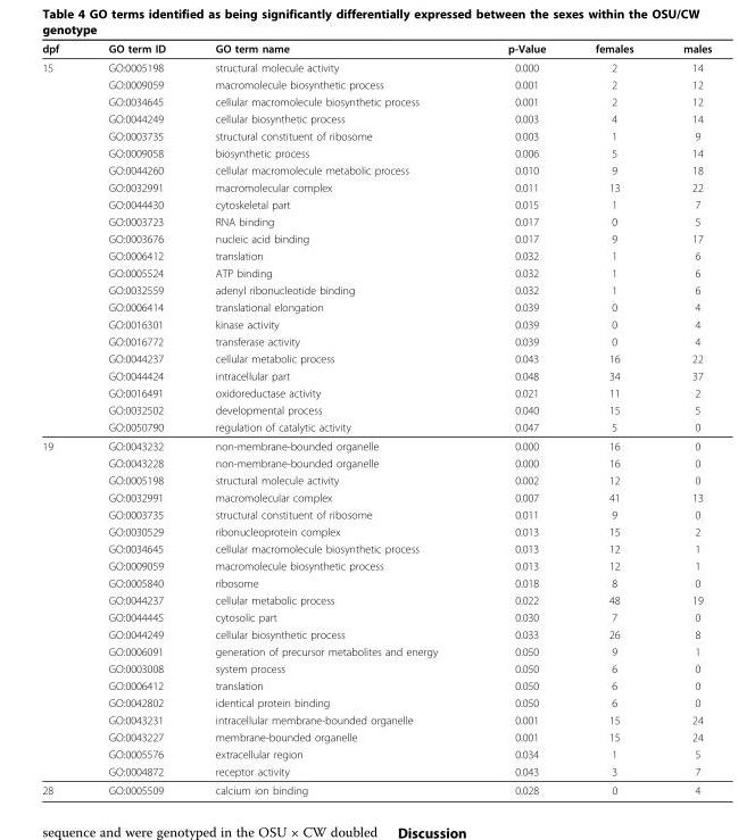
<table><thead><tr><td>dpf</td><td>GO term ID</td><td>GO term name</td><td>p-Value</td><td>females</td><td>males</td></tr></thead><tbody><tr><td rowspan="22">15</td><td>GO:0005198</td><td>structural molecule activity</td><td>0.000</td><td>2</td><td>14</td></tr><tr><td>GO:0009059</td><td>macromolecule biosynthetic process</td><td>0.001</td><td>2</td><td>12</td></tr><tr><td>GO:0034645</td><td>cellular macromolecule biosynthetic process</td><td>0.001</td><td>2</td><td>12</td></tr><tr><td>GO:0044249</td><td>cellular biosynthetic process</td><td>0.003</td><td>4</td><td>14</td></tr><tr><td>GO:0003735</td><td>structural constituent of ribosome</td><td>0.003</td><td>1</td><td>9</td></tr><tr><td>GO:0009058</td><td>biosynthetic process</td><td>0.006</td><td>5</td><td>14</td></tr><tr><td>GO:0044260</td><td>cellular macromolecule metabolic process</td><td>0.010</td><td>9</td><td>18</td></tr><tr><td>GO:0032991</td><td>macromolecular complex</td><td>0.011</td><td>13</td><td>22</td></tr><tr><td>GO:0044430</td><td>cytoskeletal part</td><td>0.015</td><td>1</td><td>7</td></tr><tr><td>GO:0003723</td><td>RNA binding</td><td>0.017</td><td>0</td><td>5</td></tr><tr><td>GO:0003676</td><td>nucleic acid binding</td><td>0.017</td><td>9</td><td>17</td></tr><tr><td>GO:0006412</td><td>translation</td><td>0.032</td><td>1</td><td>6</td></tr><tr><td>GO:0005524</td><td>ATP binding</td><td>0.032</td><td>1</td><td>6</td></tr><tr><td>GO:0032559</td><td>adenyl ribonucleotide binding</td><td>0.032</td><td>1</td><td>6</td></tr><tr><td>GO:0006414</td><td>translational elongation</td><td>0.039</td><td>0</td><td>4</td></tr><tr><td>GO:0016301</td><td>kinase activity</td><td>0.039</td><td>0</td><td>4</td></tr><tr><td>GO:0016772</td><td>transferase activity</td><td>0.039</td><td>0</td><td>4</td></tr><tr><td>GO:0044237</td><td>cellular metabolic process</td><td>0.043</td><td>16</td><td>22</td></tr><tr><td>GO:0044424</td><td>intracellular part</td><td>0.048</td><td>34</td><td>37</td></tr><tr><td>GO:0016491</td><td>oxidoreductase activity</td><td>0.021</td><td>11</td><td>2</td></tr><tr><td>GO:0032502</td><td>developmental process</td><td>0.040</td><td>15</td><td>5</td></tr><tr><td>GO:0050790</td><td>regulation of catalytic activity</td><td>0.047</td><td>5</td><td>0</td></tr><tr><td rowspan="20">19</td><td>GO:0043232</td><td>non-membrane-bounded organelle</td><td>0.000</td><td>16</td><td>0</td></tr><tr><td>GO:0043228</td><td>non-membrane-bounded organelle</td><td>0.000</td><td>16</td><td>0</td></tr><tr><td>GO:0005198</td><td>structural molecule activity</td><td>0.002</td><td>12</td><td>0</td></tr><tr><td>GO:0032991</td><td>macromolecular complex</td><td>0.007</td><td>41</td><td>13</td></tr><tr><td>GO:0003735</td><td>structural constituent of ribosome</td><td>0.011</td><td>9</td><td>0</td></tr><tr><td>GO:0030529</td><td>ribonucleoprotein complex</td><td>0.013</td><td>15</td><td>2</td></tr><tr><td>GO:0034645</td><td>cellular macromolecule biosynthetic process</td><td>0.013</td><td>12</td><td>1</td></tr><tr><td>GO:0009059</td><td>macromolecule biosynthetic process</td><td>0.013</td><td>12</td><td>1</td></tr><tr><td>GO:0005840</td><td>ribosome</td><td>0.018</td><td>8</td><td>0</td></tr><tr><td>GO:0044237</td><td>cellular metabolic process</td><td>0.022</td><td>48</td><td>19</td></tr><tr><td>GO:0044445</td><td>cytosolic part</td><td>0.030</td><td>7</td><td>0</td></tr><tr><td>GO:0044249</td><td>cellular biosynthetic process</td><td>0.033</td><td>26</td><td>8</td></tr><tr><td>GO:0006091</td><td>generation of precursor metabolites and energy</td><td>0.050</td><td>9</td><td>1</td></tr><tr><td>GO:0003008</td><td>system process</td><td>0.050</td><td>6</td><td>0</td></tr><tr><td>GO:0006412</td><td>translation</td><td>0.050</td><td>6</td><td>0</td></tr><tr><td>GO:0042802</td><td>identical protein binding</td><td>0.050</td><td>6</td><td>0</td></tr><tr><td>GO:0043231</td><td>intracellular membrane-bounded organelle</td><td>0.001</td><td>15</td><td>24</td></tr><tr><td>GO:0043227</td><td>membrane-bounded organelle</td><td>0.001</td><td>15</td><td>24</td></tr><tr><td>GO:0005576</td><td>extracellular region</td><td>0.034</td><td>1</td><td>5</td></tr><tr><td>GO:0004872</td><td>receptor activity</td><td>0.043</td><td>3</td><td>7</td></tr><tr><td>28</td><td>GO:0005509</td><td>calcium ion binding</td><td>0.028</td><td>0</td><td>4</td></tr></tbody></table>